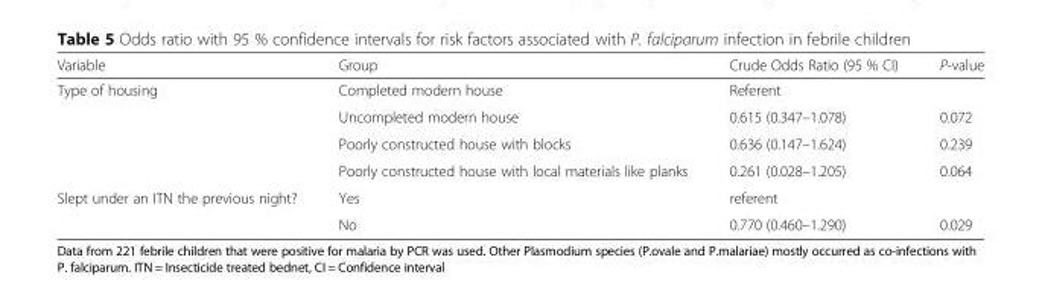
<table><thead><tr><td>Variable</td><td>Group</td><td>Crude Odds Ratio (95 % CI)</td><td>P-value</td></tr></thead><tbody><tr><td rowspan="4">Type of housing</td><td>Completed modern house</td><td>Referent</td><td></td></tr><tr><td>Uncompleted modern house</td><td>0.615 (0.347–1.078)</td><td>0.072</td></tr><tr><td>Poorly constructed house with blocks</td><td>0.636 (0.147–1.624)</td><td>0.239</td></tr><tr><td>Poorly constructed house with local materials like planks</td><td>0.261 (0.028–1.205)</td><td>0.064</td></tr><tr><td rowspan="2">Slept under an ITN the previous night?</td><td>Yes</td><td>referent</td><td></td></tr><tr><td>No</td><td>0.770 (0.460–1.290)</td><td>0.029</td></tr></tbody></table>